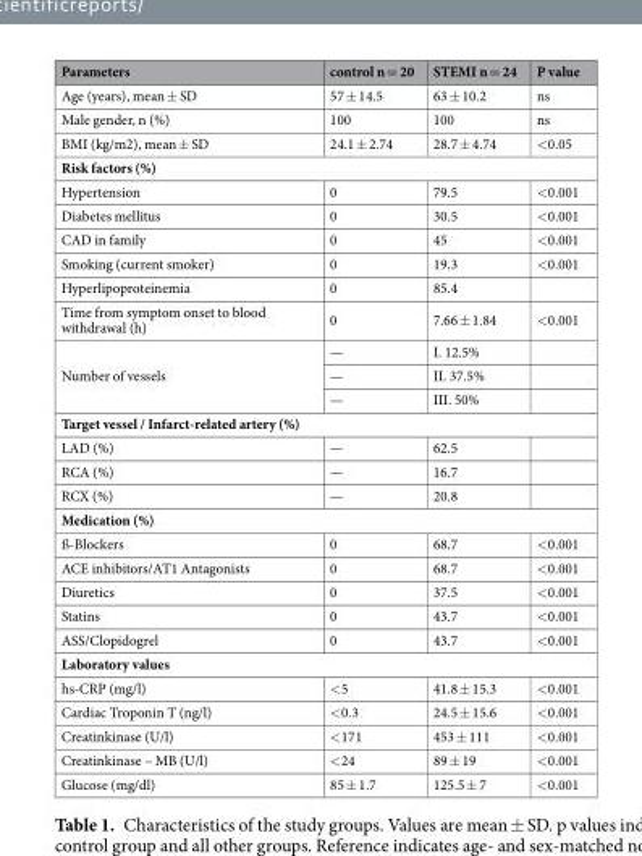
<table><thead><tr><td>Parameters</td><td>control n = 20</td><td>STEMI n = 24</td><td>P value</td></tr></thead><tbody><tr><td>Age (years), mean ± SD</td><td>57 ± 14.5</td><td>63 ± 10.2</td><td>ns</td></tr><tr><td>Male gender, n (%)</td><td>100</td><td>100</td><td>ns</td></tr><tr><td>BMI (kg/m2), mean ± SD</td><td>24.1 ± 2.74</td><td>28.7 ± 4.74</td><td>&lt;0.05</td></tr><tr><td colspan="4">Risk factors (%)</td></tr><tr><td>Hypertension</td><td>0</td><td>79.5</td><td>&lt;0.001</td></tr><tr><td>Diabetes mellitus</td><td>0</td><td>30.5</td><td>&lt;0.001</td></tr><tr><td>CAD in family</td><td>0</td><td>45</td><td>&lt;0.001</td></tr><tr><td>Smoking (current smoker)</td><td>0</td><td>19.3</td><td>&lt;0.001</td></tr><tr><td>Hyperlipoproteinemia</td><td>0</td><td>85.4</td><td></td></tr><tr><td>Time from symptom onset to blood withdrawal (h)</td><td>0</td><td>7.66 ± 1.84</td><td>&lt;0.001</td></tr><tr><td rowspan="3">Number of vessels</td><td>—</td><td>I. 12.5%</td><td></td></tr><tr><td>—</td><td>II. 37.5%</td><td></td></tr><tr><td>—</td><td>III. 50%</td><td></td></tr><tr><td colspan="4">Target vessel / Infarct-related artery (%)</td></tr><tr><td>LAD (%)</td><td>—</td><td>62.5</td><td></td></tr><tr><td>RCA (%)</td><td>—</td><td>16.7</td><td></td></tr><tr><td>RCX (%)</td><td>—</td><td>20.8</td><td></td></tr><tr><td colspan="4">Medication (%)</td></tr><tr><td>ß-Blockers</td><td>0</td><td>68.7</td><td>&lt;0.001</td></tr><tr><td>ACE inhibitors/AT1 Antagonists</td><td>0</td><td>68.7</td><td>&lt;0.001</td></tr><tr><td>Diuretics</td><td>0</td><td>37.5</td><td>&lt;0.001</td></tr><tr><td>Statins</td><td>0</td><td>43.7</td><td>&lt;0.001</td></tr><tr><td>ASS/Clopidogrel</td><td>0</td><td>43.7</td><td>&lt;0.001</td></tr><tr><td colspan="4">Laboratory values</td></tr><tr><td>hs-CRP (mg/l)</td><td>&lt;5</td><td>41.8 ± 15.3</td><td>&lt;0.001</td></tr><tr><td>Cardiac Troponin T (ng/l)</td><td>&lt;0.3</td><td>24.5 ± 15.6</td><td>&lt;0.001</td></tr><tr><td>Creatinkinase (U/l)</td><td>&lt;171</td><td>453 ± 111</td><td>&lt;0.001</td></tr><tr><td>Creatinkinase – MB (U/l)</td><td>&lt;24</td><td>89 ± 19</td><td>&lt;0.001</td></tr><tr><td>Glucose (mg/dl)</td><td>85 ± 1.7</td><td>125.5 ± 7</td><td>&lt;0.001</td></tr></tbody></table>